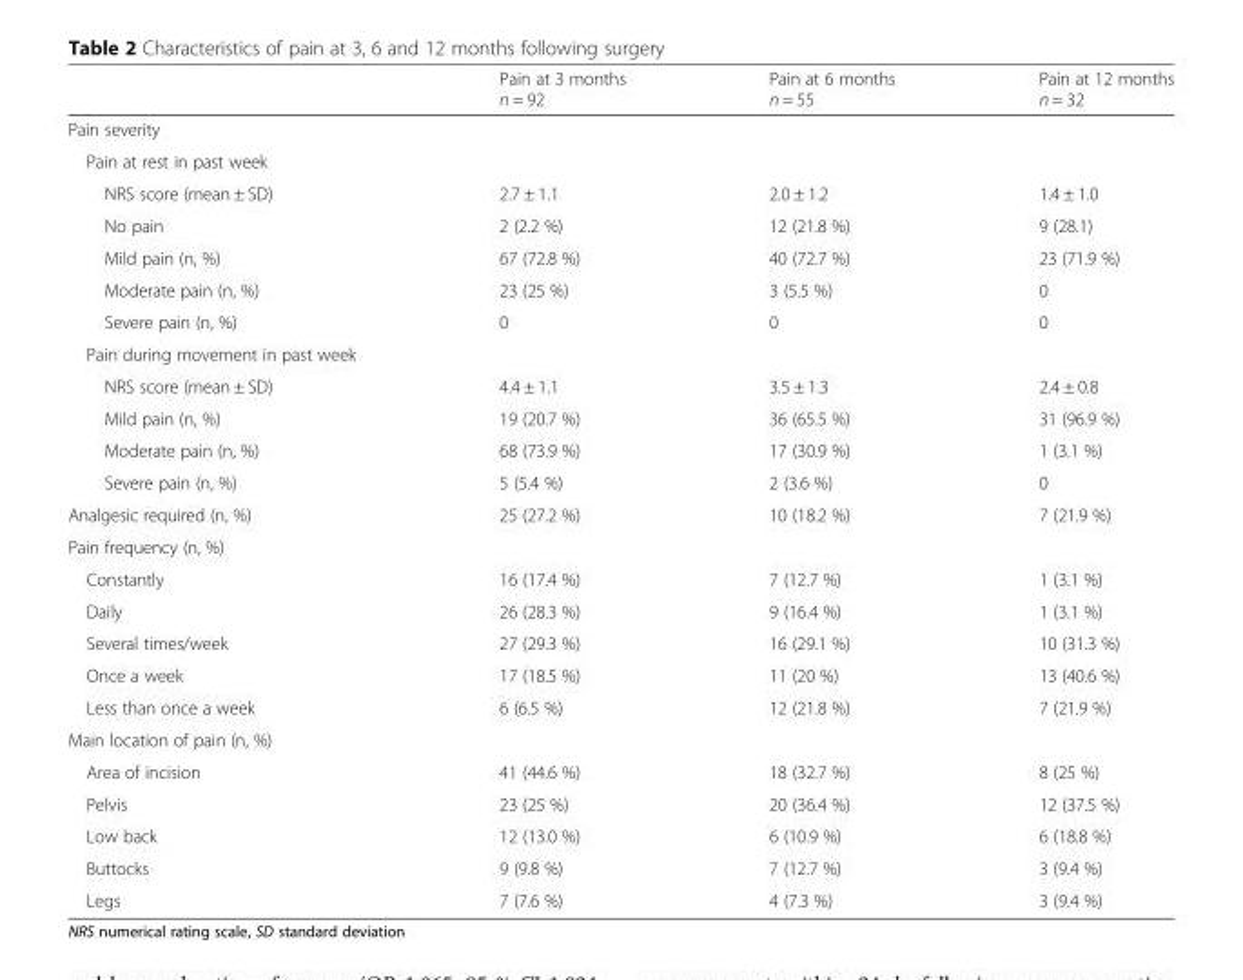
<table><thead><tr><td></td><td>Pain at 3 months n = 92</td><td>Pain at 6 months n = 55</td><td>Pain at 12 months n = 32</td></tr></thead><tbody><tr><td colspan="4">Pain severity</td></tr><tr><td colspan="4">Pain at rest in past week</td></tr><tr><td>NRS score (mean ± SD)</td><td>2.7 ± 1.1</td><td>2.0 ± 1.2</td><td>1.4 ± 1.0</td></tr><tr><td>No pain</td><td>2 (2.2 %)</td><td>12 (21.8 %)</td><td>9 (28.1)</td></tr><tr><td>Mild pain (n, %)</td><td>67 (72.8 %)</td><td>40 (72.7 %)</td><td>23 (71.9 %)</td></tr><tr><td>Moderate pain (n, %)</td><td>23 (25 %)</td><td>3 (5.5 %)</td><td>0</td></tr><tr><td>Severe pain (n, %)</td><td>0</td><td>0</td><td>0</td></tr><tr><td colspan="4">Pain during movement in past week</td></tr><tr><td>NRS score (mean ± SD)</td><td>4.4 ± 1.1</td><td>3.5 ± 1.3</td><td>2.4 ± 0.8</td></tr><tr><td>Mild pain (n, %)</td><td>19 (20.7 %)</td><td>36 (65.5 %)</td><td>31 (96.9 %)</td></tr><tr><td>Moderate pain (n, %)</td><td>68 (73.9 %)</td><td>17 (30.9 %)</td><td>1 (3.1 %)</td></tr><tr><td>Severe pain (n, %)</td><td>5 (5.4 %)</td><td>2 (3.6 %)</td><td>0</td></tr><tr><td>Analgesic required (n, %)</td><td>25 (27.2 %)</td><td>10 (18.2 %)</td><td>7 (21.9 %)</td></tr><tr><td colspan="4">Pain frequency (n, %)</td></tr><tr><td>Constantly</td><td>16 (17.4 %)</td><td>7 (12.7 %)</td><td>1 (3.1 %)</td></tr><tr><td>Daily</td><td>26 (28.3 %)</td><td>9 (16.4 %)</td><td>1 (3.1 %)</td></tr><tr><td>Several times/week</td><td>27 (29.3 %)</td><td>16 (29.1 %)</td><td>10 (31.3 %)</td></tr><tr><td>Once a week</td><td>17 (18.5 %)</td><td>11 (20 %)</td><td>13 (40.6 %)</td></tr><tr><td>Less than once a week</td><td>6 (6.5 %)</td><td>12 (21.8 %)</td><td>7 (21.9 %)</td></tr><tr><td colspan="4">Main location of pain (n, %)</td></tr><tr><td>Area of incision</td><td>41 (44.6 %)</td><td>18 (32.7 %)</td><td>8 (25 %)</td></tr><tr><td>Pelvis</td><td>23 (25 %)</td><td>20 (36.4 %)</td><td>12 (37.5 %)</td></tr><tr><td>Low back</td><td>12 (13.0 %)</td><td>6 (10.9 %)</td><td>6 (18.8 %)</td></tr><tr><td>Buttocks</td><td>9 (9.8 %)</td><td>7 (12.7 %)</td><td>3 (9.4 %)</td></tr><tr><td>Legs</td><td>7 (7.6 %)</td><td>4 (7.3 %)</td><td>3 (9.4 %)</td></tr></tbody></table>